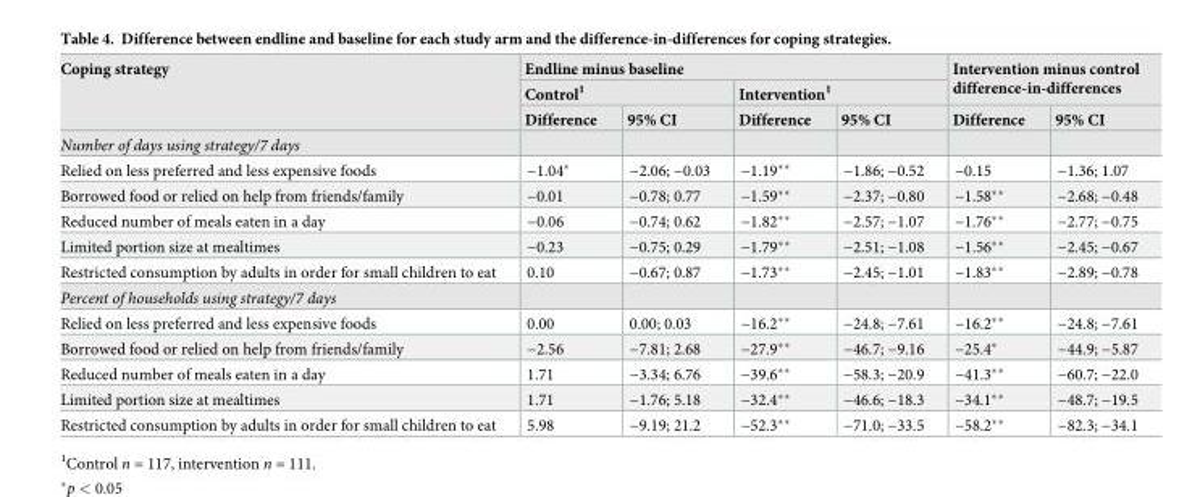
<table><thead><tr><td rowspan="3">Coping strategy</td><td colspan="4">Endline minus baseline</td><td rowspan="2" colspan="2">Intervention minus control difference-in-differences</td></tr><tr><td colspan="2">Control<sup>1</sup></td><td colspan="2">Intervention<sup>1</sup></td></tr><tr><td>Difference</td><td>95% CI</td><td>Difference</td><td>95% CI</td><td>Difference</td><td>95% CI</td></tr></thead><tbody><tr><td colspan="7">Number of days using strategy/7 days</td></tr><tr><td>Relied on less preferred and less expensive foods</td><td>−1.04*</td><td>−2.06; −0.03</td><td>−1.19**</td><td>−1.86; −0.52</td><td>−0.15</td><td>−1.36; 1.07</td></tr><tr><td>Borrowed food or relied on help from friends/family</td><td>−0.01</td><td>−0.78; 0.77</td><td>−1.59**</td><td>−2.37; −0.80</td><td>−1.58**</td><td>−2.68; −0.48</td></tr><tr><td>Reduced number of meals eaten in a day</td><td>−0.06</td><td>−0.74; 0.62</td><td>−1.82**</td><td>−2.57; −1.07</td><td>−1.76**</td><td>−2.77; −0.75</td></tr><tr><td>Limited portion size at mealtimes</td><td>−0.23</td><td>−0.75; 0.29</td><td>−1.79**</td><td>−2.51; −1.08</td><td>−1.56**</td><td>−2.45; −0.67</td></tr><tr><td>Restricted consumption by adults in order for small children to eat</td><td>0.10</td><td>−0.67; 0.87</td><td>−1.73**</td><td>−2.45; −1.01</td><td>−1.83**</td><td>−2.89; −0.78</td></tr><tr><td colspan="7">Percent of households using strategy/7 days</td></tr><tr><td>Relied on less preferred and less expensive foods</td><td>0.00</td><td>0.00; 0.03</td><td>−16.2**</td><td>−24.8; −7.61</td><td>−16.2**</td><td>−24.8; −7.61</td></tr><tr><td>Borrowed food or relied on help from friends/family</td><td>−2.56</td><td>−7.81; 2.68</td><td>−27.9**</td><td>−46.7; −9.16</td><td>−25.4*</td><td>−44.9; −5.87</td></tr><tr><td>Reduced number of meals eaten in a day</td><td>1.71</td><td>−3.34; 6.76</td><td>−39.6**</td><td>−58.3; −20.9</td><td>−41.3**</td><td>−60.7; −22.0</td></tr><tr><td>Limited portion size at mealtimes</td><td>1.71</td><td>−1.76; 5.18</td><td>−32.4**</td><td>−46.6; −18.3</td><td>−34.1**</td><td>−48.7; −19.5</td></tr><tr><td>Restricted consumption by adults in order for small children to eat</td><td>5.98</td><td>−9.19; 21.2</td><td>−52.3**</td><td>−71.0; −33.5</td><td>−58.2**</td><td>−82.3; −34.1</td></tr></tbody></table>